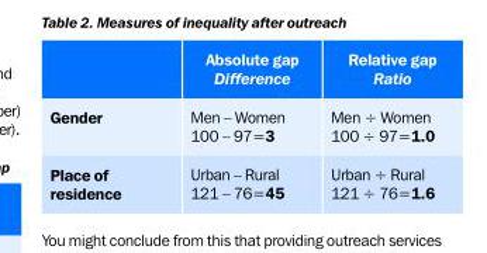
<table><thead><tr><td></td><td>Absolute gap Difference</td><td>Relative gap Ratio</td></tr></thead><tbody><tr><td>Gender</td><td>Men – Women 100 – 97=3</td><td>Men ÷ Women 100 ÷ 97=1.0</td></tr><tr><td>Place of residence</td><td>Urban – Rural 121 – 76=45</td><td>Urban ÷ Rural 121 ÷ 76=1.6</td></tr></tbody></table>